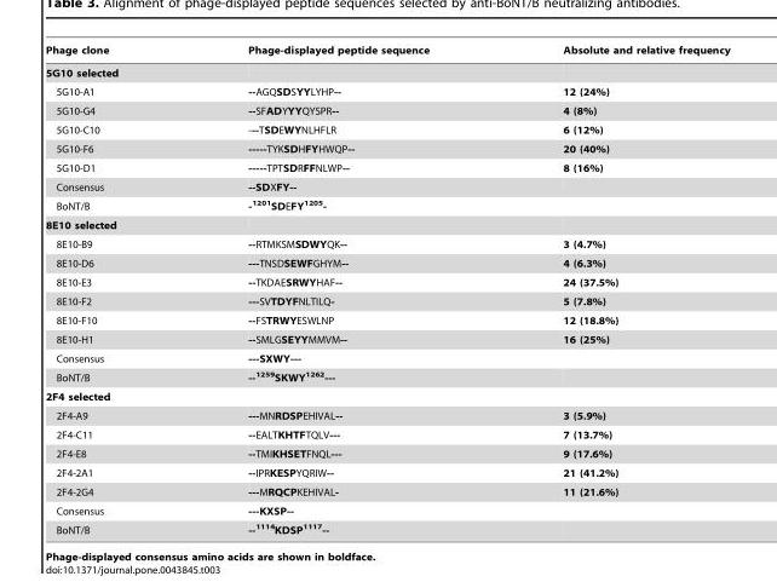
<table><thead><tr><td>Phage clone</td><td>Phage-displayed peptide sequence</td><td>Absolute and relative frequency</td></tr></thead><tbody><tr><td colspan="3">5G10 selected</td></tr><tr><td>5G10-A1</td><td>--AGQSDSYYLYHP--</td><td>12 (24%)</td></tr><tr><td>5G10-G4</td><td>--SFADYYYQYSPR--</td><td>4 (8%)</td></tr><tr><td>5G10-C10</td><td>---TSDEWYNLHFLR</td><td>6 (12%)</td></tr><tr><td>5G10-F6</td><td>-----TYKSDHFYHWQP--</td><td>20 (40%)</td></tr><tr><td>5G10-D1</td><td>-----TPTSDRFFNLWP--</td><td>8 (16%)</td></tr><tr><td>Consensus</td><td>--SDXFY--</td><td></td></tr><tr><td>BoNT/B</td><td>-<sup>1201</sup>SDEFY<sup>1205</sup>-</td><td></td></tr><tr><td colspan="3">8E10 selected</td></tr><tr><td>8E10-B9</td><td>--RTMKSMSDWYQK--</td><td>3 (4.7%)</td></tr><tr><td>8E10-D6</td><td>---TNSDSEWFGHYM--</td><td>4 (6.3%)</td></tr><tr><td>8E10-E3</td><td>--TKDAESRWYHAF--</td><td>24 (37.5%)</td></tr><tr><td>8E10-F2</td><td>---SVTDYFNLTILQ-</td><td>5 (7.8%)</td></tr><tr><td>8E10-F10</td><td>--FSTRWYESWLNP</td><td>12 (18.8%)</td></tr><tr><td>8E10-H1</td><td>--SMLGSEYYMMVM--</td><td>16 (25%)</td></tr><tr><td>Consensus</td><td>---SXWY---</td><td></td></tr><tr><td>BoNT/B</td><td>--<sup>1259</sup>SKWY<sup>1262</sup>---</td><td></td></tr><tr><td colspan="3">2F4 selected</td></tr><tr><td>2F4-A9</td><td>---MNRDSPEHIVAL--</td><td>3 (5.9%)</td></tr><tr><td>2F4-C11</td><td>--EALTKHTFTQLV---</td><td>7 (13.7%)</td></tr><tr><td>2F4-E8</td><td>--TMIKHSETFNQL---</td><td>9 (17.6%)</td></tr><tr><td>2F4-2A1</td><td>--IPRKESPYQRIW--</td><td>21 (41.2%)</td></tr><tr><td>2F4-2G4</td><td>---MRQCPKEHIVAL-</td><td>11 (21.6%)</td></tr><tr><td>Consensus</td><td>---KXSP--</td><td></td></tr><tr><td>BoNT/B</td><td>--<sup>1114</sup>KDSP<sup>1117</sup>--</td><td></td></tr></tbody></table>